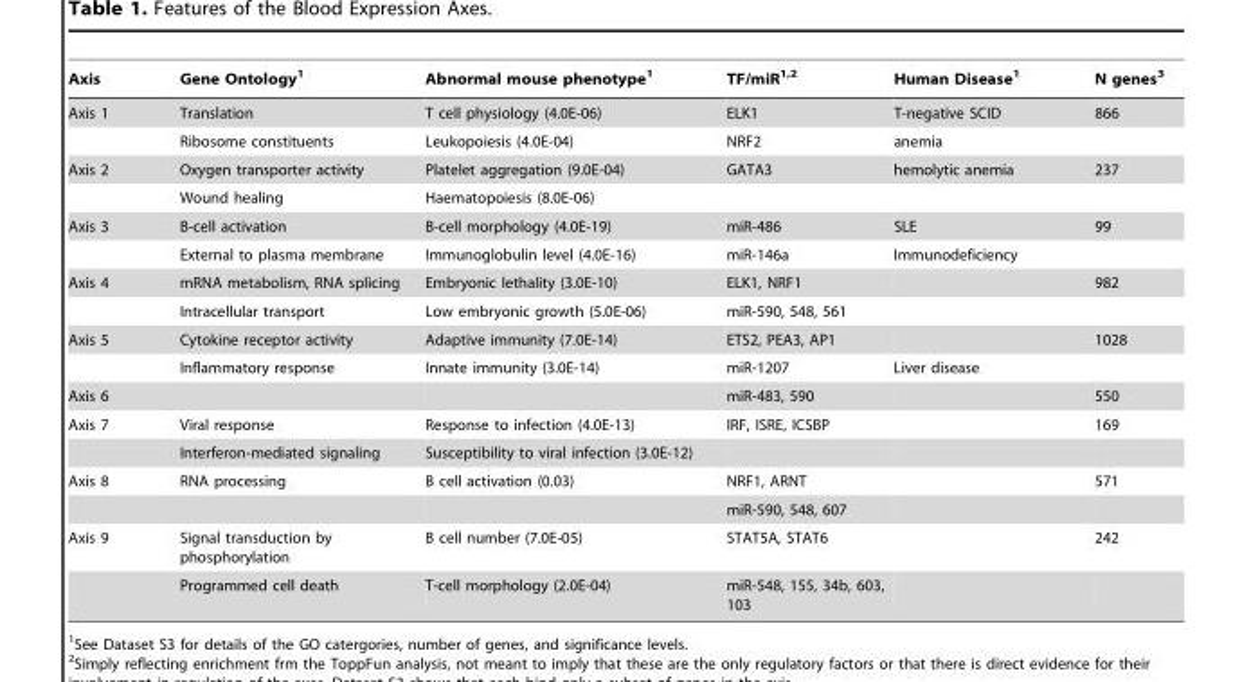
<table><thead><tr><td>Axis</td><td>Gene Ontology<sup>1</sup></td><td>Abnormal mouse phenotype<sup>1</sup></td><td>TF/miR<sup>1,</sup>2</td><td>Human Disease<sup>1</sup></td><td>N genes<sup>3</sup></td></tr></thead><tbody><tr><td rowspan="2">Axis 1</td><td>Translation</td><td>T cell physiology (4.0E-06)</td><td>ELK1</td><td>T-negative SCID</td><td>866</td></tr><tr><td>Ribosome constituents</td><td>Leukopoiesis (4.0E-04)</td><td>NRF2</td><td>anemia</td><td></td></tr><tr><td rowspan="2">Axis 2</td><td>Oxygen transporter activity</td><td>Platelet aggregation (9.0E-04)</td><td>GATA3</td><td>hemolytic anemia</td><td>237</td></tr><tr><td>Wound healing</td><td>Haematopoiesis (8.0E-06)</td><td></td><td></td><td></td></tr><tr><td rowspan="2">Axis 3</td><td>B-cell activation</td><td>B-cell morphology (4.0E-19)</td><td>miR-486</td><td>SLE</td><td>99</td></tr><tr><td>External to plasma membrane</td><td>Immunoglobulin level (4.0E-16)</td><td>miR-146a</td><td>Immunodeficiency</td><td></td></tr><tr><td rowspan="2">Axis 4</td><td>mRNA metabolism, RNA splicing</td><td>Embryonic lethality (3.0E-10)</td><td>ELK1, NRF1</td><td></td><td>982</td></tr><tr><td>Intracellular transport</td><td>Low embryonic growth (5.0E-06)</td><td>miR-590, 548, 561</td><td></td><td></td></tr><tr><td rowspan="2">Axis 5</td><td>Cytokine receptor activity</td><td>Adaptive immunity (7.0E-14)</td><td>ETS2, PEA3, AP1</td><td></td><td>1028</td></tr><tr><td>Inflammatory response</td><td>Innate immunity (3.0E-14)</td><td>miR-1207</td><td>Liver disease</td><td></td></tr><tr><td>Axis 6</td><td></td><td></td><td>miR-483, 590</td><td></td><td>550</td></tr><tr><td rowspan="2">Axis 7</td><td>Viral response</td><td>Response to infection (4.0E-13)</td><td>IRF, ISRE, ICSBP</td><td></td><td>169</td></tr><tr><td>Interferon-mediated signaling</td><td>Susceptibility to viral infection (3.0E-12)</td><td></td><td></td><td></td></tr><tr><td rowspan="2">Axis 8</td><td>RNA processing</td><td>B cell activation (0.03)</td><td>NRF1, ARNT</td><td></td><td>571</td></tr><tr><td></td><td></td><td>miR-590, 548, 607</td><td></td><td></td></tr><tr><td rowspan="2">Axis 9</td><td>Signal transduction by phosphorylation</td><td>B cell number (7.0E-05)</td><td>STAT5A, STAT6</td><td></td><td>242</td></tr><tr><td>Programmed cell death</td><td>T-cell morphology (2.0E-04)</td><td>miR-548, 155, 34b, 603, 103</td><td></td><td></td></tr></tbody></table>